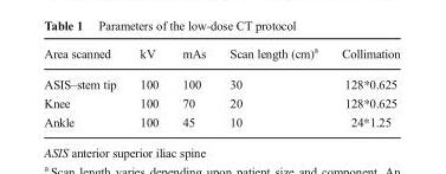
<table><thead><tr><td>Area scanned</td><td>kV</td><td>mAs</td><td>Scan length (cm)<sup>a</sup></td><td>Collimation</td></tr></thead><tbody><tr><td>ASIS–stem tip</td><td>100</td><td>100</td><td>30</td><td>128*0.625</td></tr><tr><td>Knee</td><td>100</td><td>70</td><td>20</td><td>128*0.625</td></tr><tr><td>Ankle</td><td>100</td><td>45</td><td>10</td><td>24*1.25</td></tr></tbody></table>